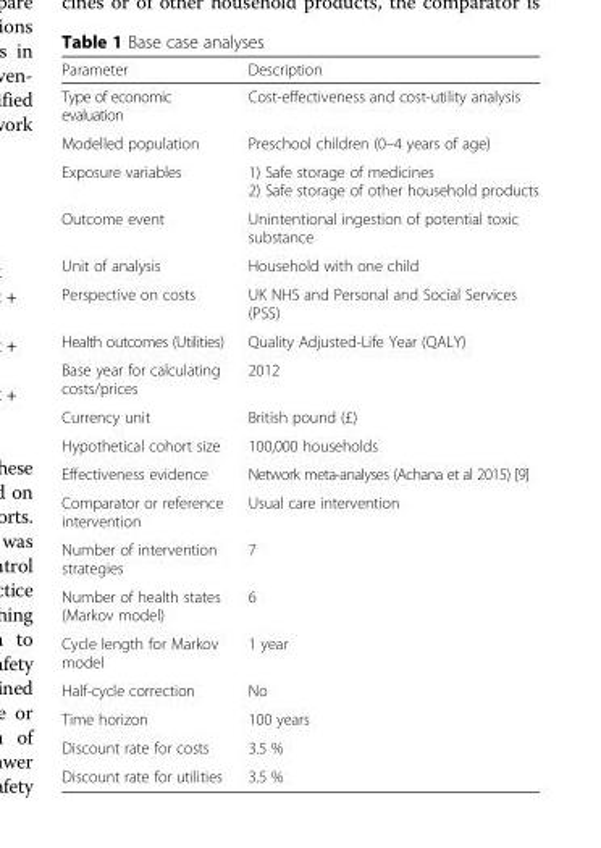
<table><thead><tr><td>Parameter</td><td>Description</td></tr></thead><tbody><tr><td>Type of economic evaluation</td><td>Cost-effectiveness and cost-utility analysis</td></tr><tr><td>Modelled population</td><td>Preschool children (0–4 years of age)</td></tr><tr><td>Exposure variables</td><td>1) Safe storage of medicines 2) Safe storage of other household products</td></tr><tr><td>Outcome event</td><td>Unintentional ingestion of potential toxic substance</td></tr><tr><td>Unit of analysis</td><td>Household with one child</td></tr><tr><td>Perspective on costs</td><td>UK NHS and Personal and Social Services (PSS)</td></tr><tr><td>Health outcomes (Utilities)</td><td>Quality Adjusted-Life Year (QALY)</td></tr><tr><td>Base year for calculating costs/prices</td><td>2012</td></tr><tr><td>Currency unit</td><td>British pound (£)</td></tr><tr><td>Hypothetical cohort size</td><td>100,000 households</td></tr><tr><td>Effectiveness evidence</td><td>Network meta-analyses (Achana et al 2015) [9]</td></tr><tr><td>Comparator or reference intervention</td><td>Usual care intervention</td></tr><tr><td>Number of intervention strategies</td><td>7</td></tr><tr><td>Number of health states (Markov model)</td><td>6</td></tr><tr><td>Cycle length for Markov model</td><td>1 year</td></tr><tr><td>Half-cycle correction</td><td>No</td></tr><tr><td>Time horizon</td><td>100 years</td></tr><tr><td>Discount rate for costs</td><td>3.5 %</td></tr><tr><td>Discount rate for utilities</td><td>3.5 %</td></tr></tbody></table>